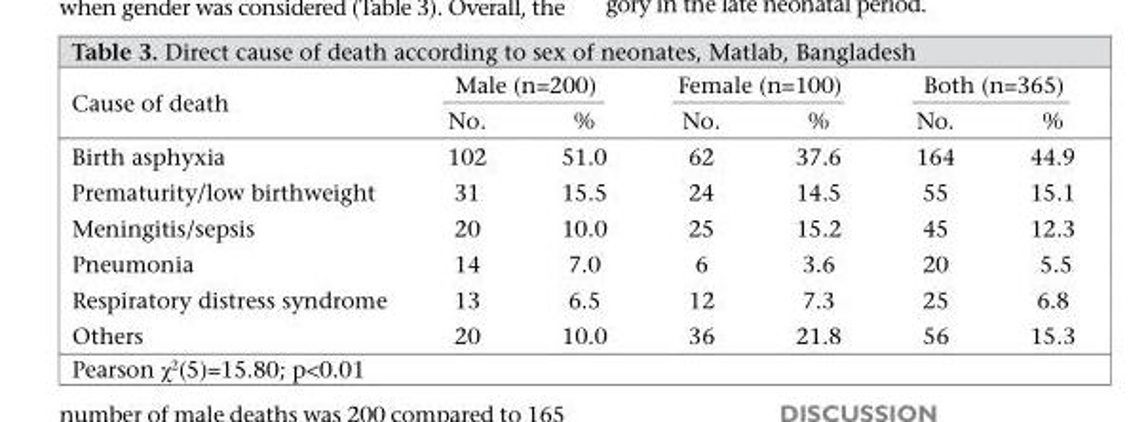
<table><thead><tr><td rowspan="2">Cause of death</td><td colspan="2">Male (n=200)</td><td colspan="2">Female (n=100)</td><td colspan="2">Both (n=365)</td></tr><tr><td>No.</td><td>%</td><td>No.</td><td>%</td><td>No.</td><td>%</td></tr></thead><tbody><tr><td>Birth asphyxia</td><td>102</td><td>51.0</td><td>62</td><td>37.6</td><td>164</td><td>44.9</td></tr><tr><td>Prematurity/low birthweight</td><td>31</td><td>15.5</td><td>24</td><td>14.5</td><td>55</td><td>15.1</td></tr><tr><td>Meningitis/sepsis</td><td>20</td><td>10.0</td><td>25</td><td>15.2</td><td>45</td><td>12.3</td></tr><tr><td>Pneumonia</td><td>14</td><td>7.0</td><td>6</td><td>3.6</td><td>20</td><td>5.5</td></tr><tr><td>Respiratory distress syndrome</td><td>13</td><td>6.5</td><td>12</td><td>7.3</td><td>25</td><td>6.8</td></tr><tr><td>Others</td><td>20</td><td>10.0</td><td>36</td><td>21.8</td><td>56</td><td>15.3</td></tr></tbody></table>